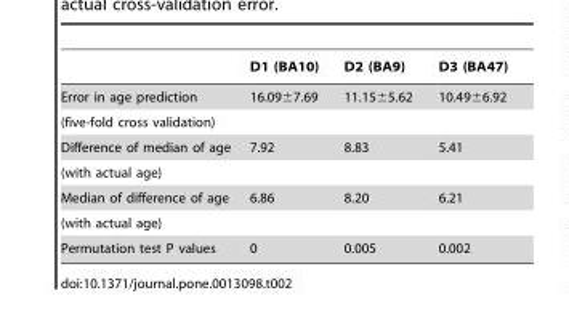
<table><thead><tr><td></td><td>D1 (BA10)</td><td>D2 (BA9)</td><td>D3 (BA47)</td></tr></thead><tbody><tr><td>Error in age prediction</td><td>16.09±7.69</td><td>11.15±5.62</td><td>10.49±6.92</td></tr><tr><td colspan="4">(five-fold cross validation)</td></tr><tr><td>Difference of median of age</td><td>7.92</td><td>8.83</td><td>5.41</td></tr><tr><td colspan="4">(with actual age)</td></tr><tr><td>Median of difference of age</td><td>6.86</td><td>8.20</td><td>6.21</td></tr><tr><td colspan="4">(with actual age)</td></tr><tr><td>Permutation test P values</td><td>0</td><td>0.005</td><td>0.002</td></tr></tbody></table>